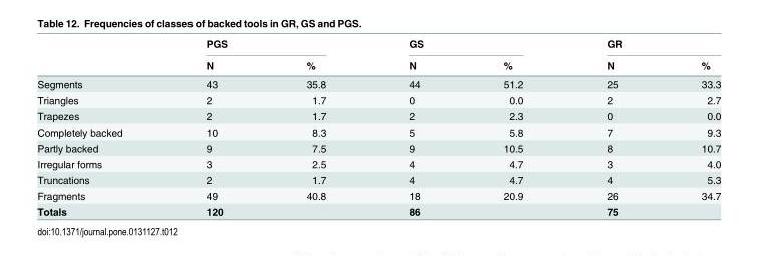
<table><thead><tr><td rowspan="2"></td><td colspan="2">PGS</td><td colspan="2">GS</td><td colspan="2">GR</td></tr><tr><td>N</td><td>%</td><td>N</td><td>%</td><td>N</td><td>%</td></tr></thead><tbody><tr><td>Segments</td><td>43</td><td>35.8</td><td>44</td><td>51.2</td><td>25</td><td>33.3</td></tr><tr><td>Triangles</td><td>2</td><td>1.7</td><td>0</td><td>0.0</td><td>2</td><td>2.7</td></tr><tr><td>Trapezes</td><td>2</td><td>1.7</td><td>2</td><td>2.3</td><td>0</td><td>0.0</td></tr><tr><td>Completely backed</td><td>10</td><td>8.3</td><td>5</td><td>5.8</td><td>7</td><td>9.3</td></tr><tr><td>Partly backed</td><td>9</td><td>7.5</td><td>9</td><td>10.5</td><td>8</td><td>10.7</td></tr><tr><td>Irregular forms</td><td>3</td><td>2.5</td><td>4</td><td>4.7</td><td>3</td><td>4.0</td></tr><tr><td>Truncations</td><td>2</td><td>1.7</td><td>4</td><td>4.7</td><td>4</td><td>5.3</td></tr><tr><td>Fragments</td><td>49</td><td>40.8</td><td>18</td><td>20.9</td><td>26</td><td>34.7</td></tr><tr><td>Totals</td><td>120</td><td></td><td>86</td><td></td><td>75</td><td></td></tr></tbody></table>